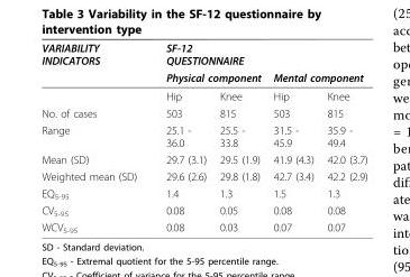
<table><thead><tr><td rowspan="3">VARIABILITY INDICATORS</td><td rowspan="2" colspan="2">SF-12 QUESTIONNAIRE Physical component</td><td></td><td></td></tr><tr><td colspan="2">Mental component</td></tr><tr><td>Hip</td><td>Knee</td><td>Hip</td><td>Knee</td></tr></thead><tbody><tr><td>No. of cases</td><td>503</td><td>815</td><td>503</td><td>815</td></tr><tr><td>Range</td><td>25.1 - 36.0</td><td>25.5 - 33.8</td><td>31.5 - 45.9</td><td>35.9 - 49.4</td></tr><tr><td>Mean (SD)</td><td>29.7 (3.1)</td><td>29.5 (1.9)</td><td>41.9 (4.3)</td><td>42.0 (3.7)</td></tr><tr><td>Weighted mean (SD)</td><td>29.6 (2.6)</td><td>29.8 (1.8)</td><td>42.7 (3.4)</td><td>42.2 (2.9)</td></tr><tr><td>EQ<sub>5-95</sub></td><td>1.4</td><td>1.3</td><td>1.5</td><td>1.3</td></tr><tr><td>CV<sub>5-95</sub></td><td>0.08</td><td>0.05</td><td>0.08</td><td>0.08</td></tr><tr><td>WCV<sub>5-95</sub></td><td>0.08</td><td>0.03</td><td>0.07</td><td>0.07</td></tr></tbody></table>